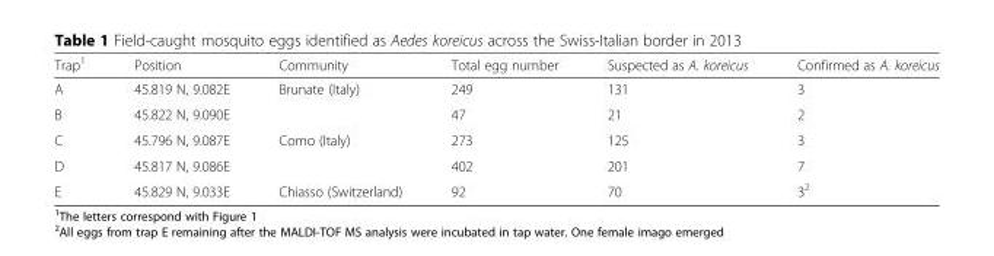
<table><thead><tr><td>Trap<sup>1</sup></td><td>Position</td><td>Community</td><td>Total egg number</td><td>Suspected as A. koreicus</td><td>Confirmed as A. koreicus</td></tr></thead><tbody><tr><td>A</td><td>45.819 N, 9.082E</td><td>Brunate (Italy)</td><td>249</td><td>131</td><td>3</td></tr><tr><td>B</td><td>45.822 N, 9.090E</td><td></td><td>47</td><td>21</td><td>2</td></tr><tr><td>C</td><td>45.796 N, 9.087E</td><td>Como (Italy)</td><td>273</td><td>125</td><td>3</td></tr><tr><td>D</td><td>45.817 N, 9.086E</td><td></td><td>402</td><td>201</td><td>7</td></tr><tr><td>E</td><td>45.829 N, 9.033E</td><td>Chiasso (Switzerland)</td><td>92</td><td>70</td><td>3<sup>2</sup></td></tr></tbody></table>